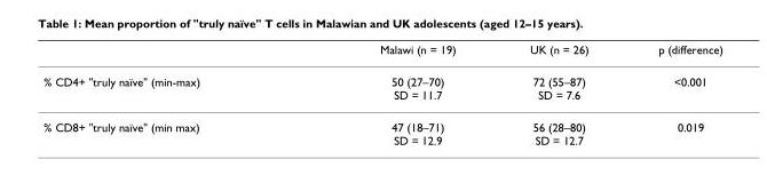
<table><thead><tr><td></td><td>Malawi (n = 19)</td><td>UK (n = 26)</td><td>p (difference)</td></tr></thead><tbody><tr><td>% CD4+ &quot;truly naïve&quot; (min-max)</td><td>50 (27–70) SD = 11.7</td><td>72 (55–87) SD = 7.6</td><td>&lt;0.001</td></tr><tr><td>% CD8+ &quot;truly naïve&quot; (min max)</td><td>47 (18–71) SD = 12.9</td><td>56 (28–80) SD = 12.7</td><td>0.019</td></tr></tbody></table>